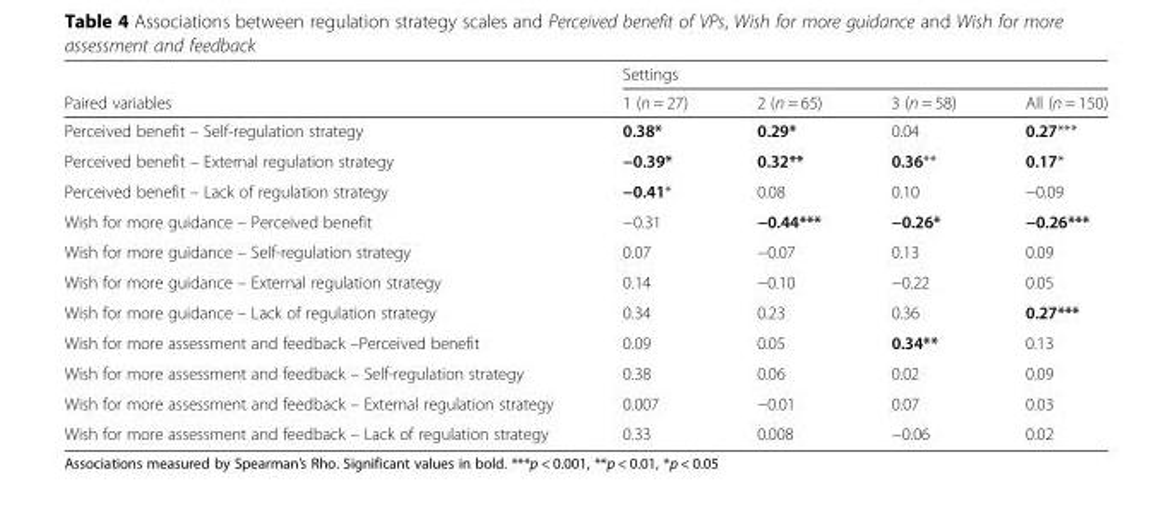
<table><thead><tr><td rowspan="2">Paired variables</td><td colspan="4">Settings</td></tr><tr><td>1 (n = 27)</td><td>2 (n = 65)</td><td>3 (n = 58)</td><td>All (n = 150)</td></tr></thead><tbody><tr><td>Perceived benefit – Self-regulation strategy</td><td>0.38*</td><td>0.29*</td><td>0.04</td><td>0.27***</td></tr><tr><td>Perceived benefit – External regulation strategy</td><td>−0.39*</td><td>0.32**</td><td>0.36**</td><td>0.17*</td></tr><tr><td>Perceived benefit – Lack of regulation strategy</td><td>−0.41*</td><td>0.08</td><td>0.10</td><td>−0.09</td></tr><tr><td>Wish for more guidance – Perceived benefit</td><td>−0.31</td><td>−0.44***</td><td>−0.26*</td><td>−0.26***</td></tr><tr><td>Wish for more guidance – Self-regulation strategy</td><td>0.07</td><td>−0.07</td><td>0.13</td><td>0.09</td></tr><tr><td>Wish for more guidance – External regulation strategy</td><td>0.14</td><td>−0.10</td><td>−0.22</td><td>0.05</td></tr><tr><td>Wish for more guidance – Lack of regulation strategy</td><td>0.34</td><td>0.23</td><td>0.36</td><td>0.27***</td></tr><tr><td>Wish for more assessment and feedback –Perceived benefit</td><td>0.09</td><td>0.05</td><td>0.34**</td><td>0.13</td></tr><tr><td>Wish for more assessment and feedback – Self-regulation strategy</td><td>0.38</td><td>0.06</td><td>0.02</td><td>0.09</td></tr><tr><td>Wish for more assessment and feedback – External regulation strategy</td><td>0.007</td><td>−0.01</td><td>0.07</td><td>0.03</td></tr><tr><td>Wish for more assessment and feedback – Lack of regulation strategy</td><td>0.33</td><td>0.008</td><td>−0.06</td><td>0.02</td></tr></tbody></table>